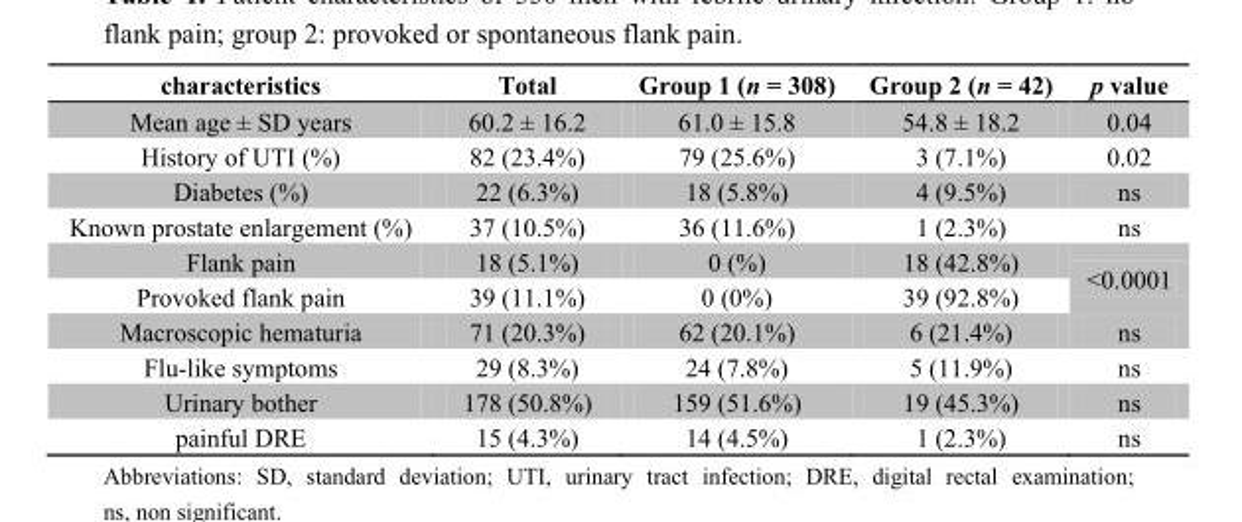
<table><thead><tr><td>characteristics</td><td>Total</td><td>Group 1 (n = 308)</td><td>Group 2 (n = 42)</td><td>p value</td></tr></thead><tbody><tr><td>Mean age ± SD years</td><td>60.2 ± 16.2</td><td>61.0 ± 15.8</td><td>54.8 ± 18.2</td><td>0.04</td></tr><tr><td>History of UTI (%)</td><td>82 (23.4%)</td><td>79 (25.6%)</td><td>3 (7.1%)</td><td>0.02</td></tr><tr><td>Diabetes (%)</td><td>22 (6.3%)</td><td>18 (5.8%)</td><td>4 (9.5%)</td><td>ns</td></tr><tr><td>Known prostate enlargement (%)</td><td>37 (10.5%)</td><td>36 (11.6%)</td><td>1 (2.3%)</td><td>ns</td></tr><tr><td>Flank pain</td><td>18 (5.1%)</td><td>0 (%)</td><td>18 (42.8%)</td><td rowspan="2">&lt;0.0001</td></tr><tr><td>Provoked flank pain</td><td>39 (11.1%)</td><td>0 (0%)</td><td>39 (92.8%)</td></tr><tr><td>Macroscopic hematuria</td><td>71 (20.3%)</td><td>62 (20.1%)</td><td>6 (21.4%)</td><td>ns</td></tr><tr><td>Flu-like symptoms</td><td>29 (8.3%)</td><td>24 (7.8%)</td><td>5 (11.9%)</td><td>ns</td></tr><tr><td>Urinary bother</td><td>178 (50.8%)</td><td>159 (51.6%)</td><td>19 (45.3%)</td><td>ns</td></tr><tr><td>painful DRE</td><td>15 (4.3%)</td><td>14 (4.5%)</td><td>1 (2.3%)</td><td>ns</td></tr></tbody></table>